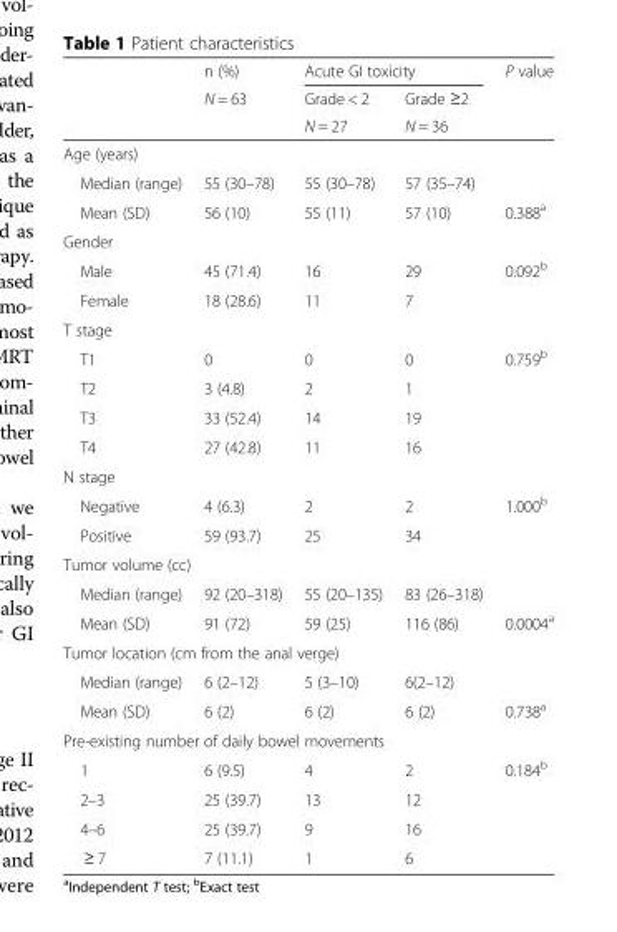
<table><thead><tr><td rowspan="3"></td><td rowspan="3">n (%) N = 63</td><td colspan="2">Acute GI toxicity</td><td rowspan="3">P value</td></tr><tr><td rowspan="2">Grade &lt; 2 N = 27</td><td rowspan="2">Grade ≥2 N = 36</td></tr><tr></tr></thead><tbody><tr><td colspan="5">Age (years)</td></tr><tr><td>Median (range)</td><td>55 (30–78)</td><td>55 (30–78)</td><td>57 (35–74)</td><td></td></tr><tr><td>Mean (SD)</td><td>56 (10)</td><td>55 (11)</td><td>57 (10)</td><td>0.388<sup>a</sup></td></tr><tr><td colspan="5">Gender</td></tr><tr><td>Male</td><td>45 (71.4)</td><td>16</td><td>29</td><td>0.092<sup>b</sup></td></tr><tr><td>Female</td><td>18 (28.6)</td><td>11</td><td>7</td><td></td></tr><tr><td colspan="5">T stage</td></tr><tr><td>T1</td><td>0</td><td>0</td><td>0</td><td>0.759<sup>b</sup></td></tr><tr><td>T2</td><td>3 (4.8)</td><td>2</td><td>1</td><td></td></tr><tr><td>T3</td><td>33 (52.4)</td><td>14</td><td>19</td><td></td></tr><tr><td>T4</td><td>27 (42.8)</td><td>11</td><td>16</td><td></td></tr><tr><td colspan="5">N stage</td></tr><tr><td>Negative</td><td>4 (6.3)</td><td>2</td><td>2</td><td>1.000<sup>b</sup></td></tr><tr><td>Positive</td><td>59 (93.7)</td><td>25</td><td>34</td><td></td></tr><tr><td colspan="5">Tumor volume (cc)</td></tr><tr><td>Median (range)</td><td>92 (20–318)</td><td>55 (20–135)</td><td>83 (26–318)</td><td></td></tr><tr><td>Mean (SD)</td><td>91 (72)</td><td>59 (25)</td><td>116 (86)</td><td>0.0004<sup>a</sup></td></tr><tr><td colspan="5">Tumor location (cm from the anal verge)</td></tr><tr><td>Median (range)</td><td>6 (2–12)</td><td>5 (3–10)</td><td>6(2–12)</td><td></td></tr><tr><td>Mean (SD)</td><td>6 (2)</td><td>6 (2)</td><td>6 (2)</td><td>0.738<sup>a</sup></td></tr><tr><td colspan="5">Pre-existing number of daily bowel movements</td></tr><tr><td>1</td><td>6 (9.5)</td><td>4</td><td>2</td><td>0.184<sup>b</sup></td></tr><tr><td>2–3</td><td>25 (39.7)</td><td>13</td><td>12</td><td></td></tr><tr><td>4–6</td><td>25 (39.7)</td><td>9</td><td>16</td><td></td></tr><tr><td>≥ 7</td><td>7 (11.1)</td><td>1</td><td>6</td><td></td></tr></tbody></table>